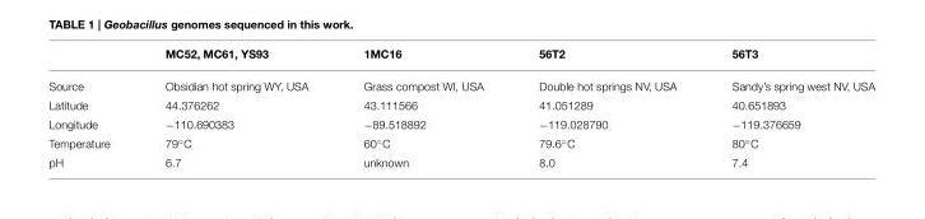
<table><thead><tr><td></td><td>MC52, MC61, YS93</td><td>1MC16</td><td>56T2</td><td>56T3</td></tr></thead><tbody><tr><td>Source</td><td>Obsidian hot spring WY, USA</td><td>Grass compost WI, USA</td><td>Double hot springs NV, USA</td><td>Sandy’s spring west NV, USA</td></tr><tr><td>Latitude</td><td>44.376262</td><td>43.111566</td><td>41.051289</td><td>40.651893</td></tr><tr><td>Longitude</td><td>−110.690383</td><td>−89.518892</td><td>−119.028790</td><td>−119.376659</td></tr><tr><td>Temperature</td><td>79◦C</td><td>60◦C</td><td>79.6◦C</td><td>80◦C</td></tr><tr><td>pH</td><td>6.7</td><td>unknown</td><td>8.0</td><td>7.4</td></tr></tbody></table>